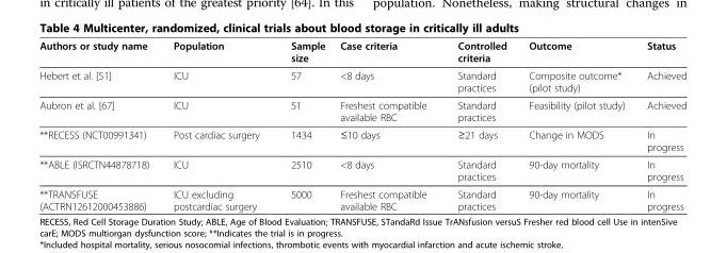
<table><thead><tr><td>Authors or study name</td><td>Population</td><td>Sample size</td><td>Case criteria</td><td>Controlled criteria</td><td>Outcome</td><td>Status</td></tr></thead><tbody><tr><td>Hebert et al. [51]</td><td>ICU</td><td>57</td><td>&lt;8 days</td><td>Standard practices</td><td>Composite outcome* (pilot study)</td><td>Achieved</td></tr><tr><td>Aubron et al. [67]</td><td>ICU</td><td>51</td><td>Freshest compatible available RBC</td><td>Standard practices</td><td>Feasibility (pilot study)</td><td>Achieved</td></tr><tr><td>**RECESS (NCT00991341)</td><td>Post cardiac surgery</td><td>1434</td><td>≤10 days</td><td>≥21 days</td><td>Change in MODS</td><td>In progress</td></tr><tr><td>**ABLE (ISRCTN44878718)</td><td>ICU</td><td>2510</td><td>&lt;8 days</td><td>Standard practices</td><td>90-day mortality</td><td>In progress</td></tr><tr><td>**TRANSFUSE (ACTRN12612000453886)</td><td>ICU excluding postcardiac surgery</td><td>5000</td><td>Freshest compatible available RBC</td><td>Standard practices</td><td>90-day mortality</td><td>In progress</td></tr></tbody></table>